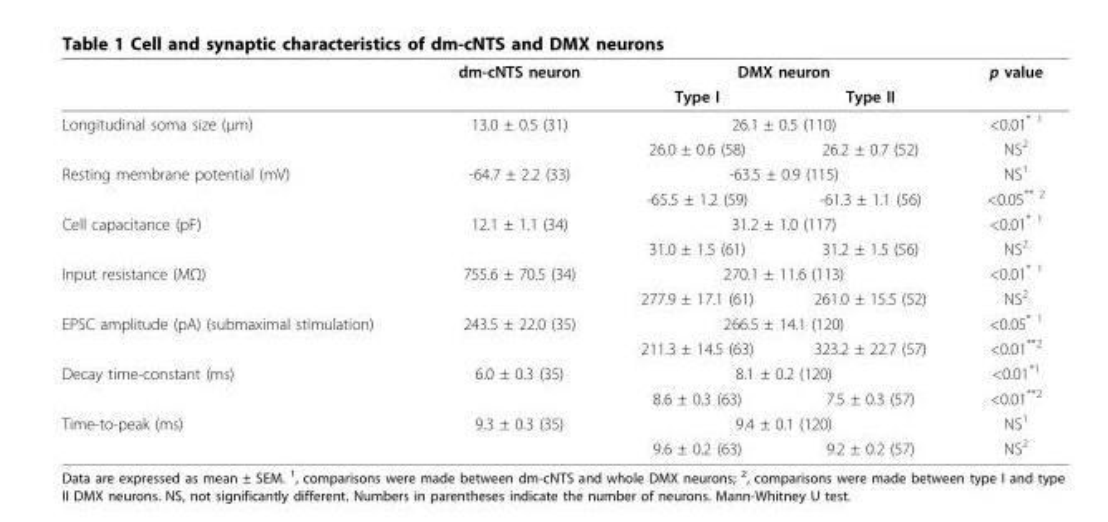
<table><thead><tr><td rowspan="2"></td><td rowspan="2">dm-cNTS neuron</td><td colspan="2">DMX neuron</td><td rowspan="2">p value</td></tr><tr><td>Type I</td><td>Type II</td></tr></thead><tbody><tr><td rowspan="2">Longitudinal soma size (μm)</td><td>13.0 ± 0.5 (31)</td><td colspan="2">26.1 ± 0.5 (110)</td><td>&lt;0.01<sup>* 1</sup></td></tr><tr><td></td><td>26.0 ± 0.6 (58)</td><td>26.2 ± 0.7 (52)</td><td>NS<sup>2</sup></td></tr><tr><td rowspan="2">Resting membrane potential (mV)</td><td>-64.7 ± 2.2 (33)</td><td colspan="2">-63.5 ± 0.9 (115)</td><td>NS<sup>1</sup></td></tr><tr><td></td><td>-65.5 ± 1.2 (59)</td><td>-61.3 ± 1.1 (56)</td><td>&lt;0.05<sup>** 2</sup></td></tr><tr><td rowspan="2">Cell capacitance (pF)</td><td>12.1 ± 1.1 (34)</td><td colspan="2">31.2 ± 1.0 (117)</td><td>&lt;0.01<sup>* 1</sup></td></tr><tr><td></td><td>31.0 ± 1.5 (61)</td><td>31.2 ± 1.5 (56)</td><td>NS<sup>2</sup></td></tr><tr><td rowspan="2">Input resistance (MΩ)</td><td>755.6 ± 70.5 (34)</td><td colspan="2">270.1 ± 11.6 (113)</td><td>&lt;0.01<sup>* 1</sup></td></tr><tr><td></td><td>277.9 ± 17.1 (61)</td><td>261.0 ± 15.5 (52)</td><td>NS<sup>2</sup></td></tr><tr><td rowspan="2">EPSC amplitude (pA) (submaximal stimulation)</td><td>243.5 ± 22.0 (35)</td><td colspan="2">266.5 ± 14.1 (120)</td><td>&lt;0.05<sup>* 1</sup></td></tr><tr><td></td><td>211.3 ± 14.5 (63)</td><td>323.2 ± 22.7 (57)</td><td>&lt;0.01<sup>**2</sup></td></tr><tr><td rowspan="2">Decay time-constant (ms)</td><td>6.0 ± 0.3 (35)</td><td colspan="2">8.1 ± 0.2 (120)</td><td>&lt;0.01<sup>*1</sup></td></tr><tr><td></td><td>8.6 ± 0.3 (63)</td><td>7.5 ± 0.3 (57)</td><td>&lt;0.01<sup>**2</sup></td></tr><tr><td rowspan="2">Time-to-peak (ms)</td><td>9.3 ± 0.3 (35)</td><td colspan="2">9.4 ± 0.1 (120)</td><td>NS<sup>1</sup></td></tr><tr><td></td><td>9.6 ± 0.2 (63)</td><td>9.2 ± 0.2 (57)</td><td>NS<sup>2</sup></td></tr></tbody></table>